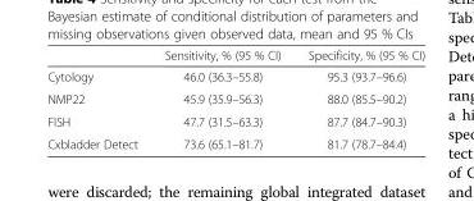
<table><thead><tr><td></td><td>Sensitivity, % (95 % CI)</td><td>Specificity, % (95 % CI)</td></tr></thead><tbody><tr><td>Cytology</td><td>46.0 (36.3–55.8)</td><td>95.3 (93.7–96.6)</td></tr><tr><td>NMP22</td><td>45.9 (35.9–56.3)</td><td>88.0 (85.5–90.2)</td></tr><tr><td>FISH</td><td>47.7 (31.5–63.3)</td><td>87.7 (84.7–90.3)</td></tr><tr><td>Cxbladder Detect</td><td>73.6 (65.1–81.7)</td><td>81.7 (78.7–84.4)</td></tr></tbody></table>